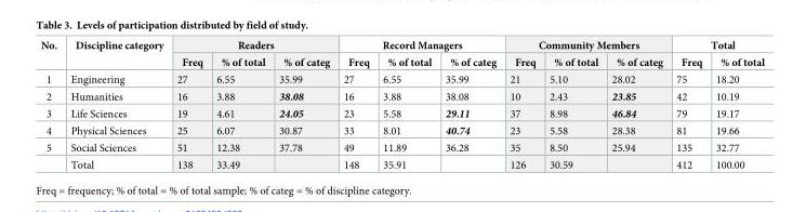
<table><thead><tr><td rowspan="2">No.</td><td rowspan="2">Discipline category</td><td colspan="3">Readers</td><td colspan="3">Record Managers</td><td colspan="3">Community Members</td><td colspan="2">Total</td></tr><tr><td>Freq</td><td>% of total</td><td>% of categ</td><td>Freq</td><td>% of total</td><td>% of categ</td><td>Freq</td><td>% of total</td><td>% of categ</td><td>Freq</td><td>% of total</td></tr></thead><tbody><tr><td>1</td><td>Engineering</td><td>27</td><td>6.55</td><td>35.99</td><td>27</td><td>6.55</td><td>35.99</td><td>21</td><td>5.10</td><td>28.02</td><td>75</td><td>18.20</td></tr><tr><td>2</td><td>Humanities</td><td>16</td><td>3.88</td><td>38.08</td><td>16</td><td>3.88</td><td>38.08</td><td>10</td><td>2.43</td><td>23.85</td><td>42</td><td>10.19</td></tr><tr><td>3</td><td>Life Sciences</td><td>19</td><td>4.61</td><td>24.05</td><td>23</td><td>5.58</td><td>29.11</td><td>37</td><td>8.98</td><td>46.84</td><td>79</td><td>19.17</td></tr><tr><td>4</td><td>Physical Sciences</td><td>25</td><td>6.07</td><td>30.87</td><td>33</td><td>8.01</td><td>40.74</td><td>23</td><td>5.58</td><td>28.38</td><td>81</td><td>19.66</td></tr><tr><td rowspan="2">5</td><td>Social Sciences</td><td>51</td><td>12.38</td><td>37.78</td><td>49</td><td>11.89</td><td>36.28</td><td>35</td><td>8.50</td><td>25.94</td><td>135</td><td>32.77</td></tr><tr><td>Total</td><td>138</td><td>33.49</td><td></td><td>148</td><td>35.91</td><td></td><td>126</td><td>30.59</td><td></td><td>412</td><td>100.00</td></tr></tbody></table>